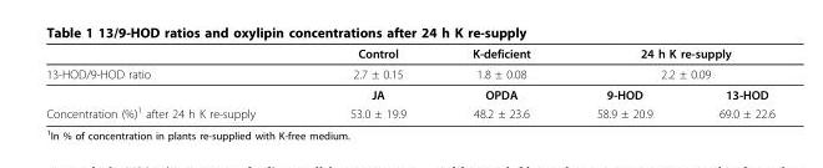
<table><thead><tr><td rowspan="3">13-HOD/9-HOD ratio</td><td rowspan="3">Control 2.7 ± 0.15 JA</td><td rowspan="3">K-deficient 1.8 ± 0.08 OPDA</td><td rowspan="2" colspan="2">24 h K re-supply 2.2 ± 0.09</td></tr><tr></tr><tr><td>9-HOD</td><td>13-HOD</td></tr></thead><tbody><tr><td>Concentration (%)<sup>1</sup> after 24 h K re-supply</td><td>53.0 ± 19.9</td><td>48.2 ± 23.6</td><td>58.9 ± 20.9</td><td>69.0 ± 22.6</td></tr></tbody></table>